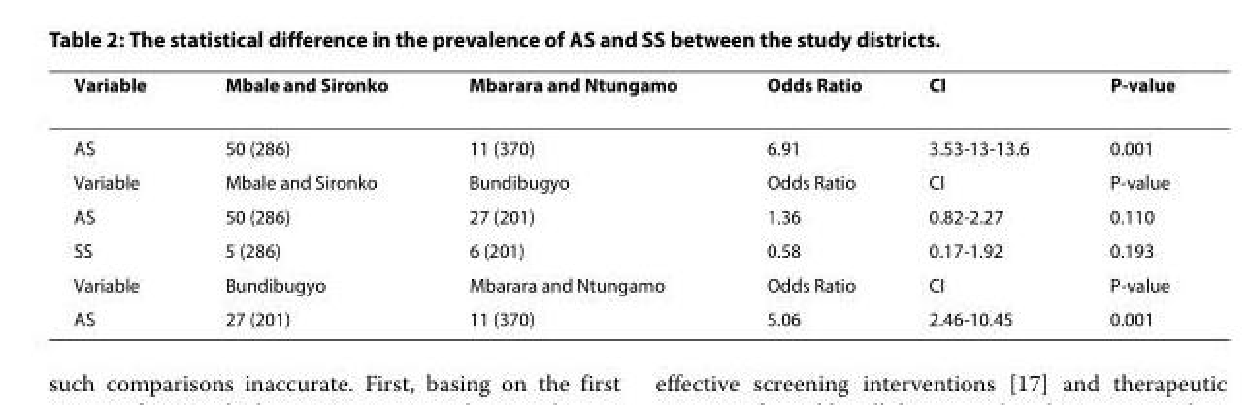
<table><thead><tr><td>Variable</td><td>Mbale and Sironko</td><td>Mbarara and Ntungamo</td><td>Odds Ratio</td><td>CI</td><td>P-value</td></tr></thead><tbody><tr><td>AS</td><td>50 (286)</td><td>11 (370)</td><td>6.91</td><td>3.53-13-13.6</td><td>0.001</td></tr><tr><td>Variable</td><td>Mbale and Sironko</td><td>Bundibugyo</td><td>Odds Ratio</td><td>CI</td><td>P-value</td></tr><tr><td>AS</td><td>50 (286)</td><td>27 (201)</td><td>1.36</td><td>0.82-2.27</td><td>0.110</td></tr><tr><td>SS</td><td>5 (286)</td><td>6 (201)</td><td>0.58</td><td>0.17-1.92</td><td>0.193</td></tr><tr><td>Variable</td><td>Bundibugyo</td><td>Mbarara and Ntungamo</td><td>Odds Ratio</td><td>CI</td><td>P-value</td></tr><tr><td>AS</td><td>27 (201)</td><td>11 (370)</td><td>5.06</td><td>2.46-10.45</td><td>0.001</td></tr></tbody></table>